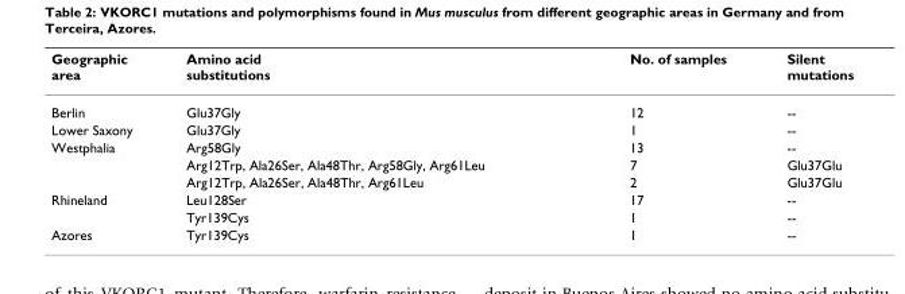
<table><thead><tr><td>Geographic area</td><td>Amino acid substitutions</td><td>No. of samples</td><td>Silent mutations</td></tr></thead><tbody><tr><td>Berlin</td><td>Glu37Gly</td><td>12</td><td>--</td></tr><tr><td>Lower Saxony</td><td>Glu37Gly</td><td>1</td><td>--</td></tr><tr><td rowspan="3">Westphalia</td><td>Arg58Gly</td><td>13</td><td>--</td></tr><tr><td>Arg12Trp, Ala26Ser, Ala48Thr, Arg58Gly, Arg61Leu</td><td>7</td><td>Glu37Glu</td></tr><tr><td>Arg12Trp, Ala26Ser, Ala48Thr, Arg61Leu</td><td>2</td><td>Glu37Glu</td></tr><tr><td rowspan="2">Rhineland</td><td>Leu128Ser</td><td>17</td><td>--</td></tr><tr><td>Tyr139Cys</td><td>1</td><td>--</td></tr><tr><td>Azores</td><td>Tyr139Cys</td><td>1</td><td>--</td></tr></tbody></table>